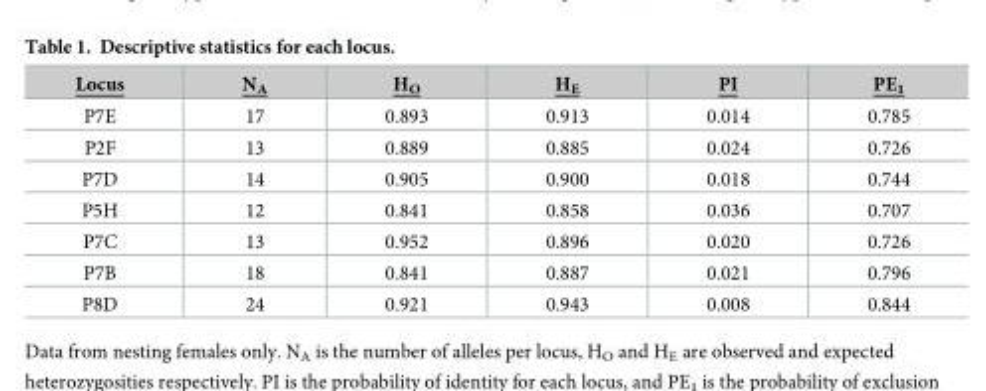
<table><thead><tr><td>Locus</td><td>N<sub>A</sub></td><td>H<sub>O</sub></td><td>H<sub>E</sub></td><td>PI</td><td>PE<sub>1</sub></td></tr></thead><tbody><tr><td>P7E</td><td>17</td><td>0.893</td><td>0.913</td><td>0.014</td><td>0.785</td></tr><tr><td>P2F</td><td>13</td><td>0.889</td><td>0.885</td><td>0.024</td><td>0.726</td></tr><tr><td>P7D</td><td>14</td><td>0.905</td><td>0.900</td><td>0.018</td><td>0.744</td></tr><tr><td>P5H</td><td>12</td><td>0.841</td><td>0.858</td><td>0.036</td><td>0.707</td></tr><tr><td>P7C</td><td>13</td><td>0.952</td><td>0.896</td><td>0.020</td><td>0.726</td></tr><tr><td>P7B</td><td>18</td><td>0.841</td><td>0.887</td><td>0.021</td><td>0.796</td></tr><tr><td>P8D</td><td>24</td><td>0.921</td><td>0.943</td><td>0.008</td><td>0.844</td></tr></tbody></table>